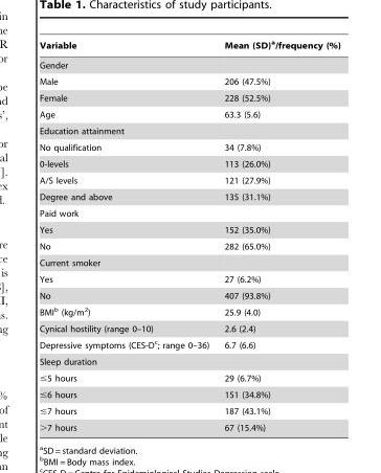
<table><thead><tr><td>Variable</td><td>Mean (SD)<sup>a</sup>/frequency (%)</td></tr></thead><tbody><tr><td colspan="2">Gender</td></tr><tr><td>Male</td><td>206 (47.5%)</td></tr><tr><td>Female</td><td>228 (52.5%)</td></tr><tr><td>Age</td><td>63.3 (5.6)</td></tr><tr><td colspan="2">Education attainment</td></tr><tr><td>No qualification</td><td>34 (7.8%)</td></tr><tr><td>0-levels</td><td>113 (26.0%)</td></tr><tr><td>A/S levels</td><td>121 (27.9%)</td></tr><tr><td>Degree and above</td><td>135 (31.1%)</td></tr><tr><td colspan="2">Paid work</td></tr><tr><td>Yes</td><td>152 (35.0%)</td></tr><tr><td>No</td><td>282 (65.0%)</td></tr><tr><td colspan="2">Current smoker</td></tr><tr><td>Yes</td><td>27 (6.2%)</td></tr><tr><td>No</td><td>407 (93.8%)</td></tr><tr><td>BMI<sup>b</sup> (kg/m<sup>2</sup>)</td><td>25.9 (4.0)</td></tr><tr><td>Cynical hostility (range 0–10)</td><td>2.6 (2.4)</td></tr><tr><td>Depressive symptoms (CES-D<sup>c</sup>; range 0–36)</td><td>6.7 (6.6)</td></tr><tr><td colspan="2">Sleep duration</td></tr><tr><td>≤5 hours</td><td>29 (6.7%)</td></tr><tr><td>≤6 hours</td><td>151 (34.8%)</td></tr><tr><td>≤7 hours</td><td>187 (43.1%)</td></tr><tr><td>&gt;7 hours</td><td>67 (15.4%)</td></tr></tbody></table>